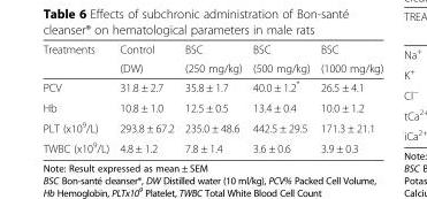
<table><thead><tr><td rowspan="2">Treatments</td><td rowspan="2">Control (DW)</td><td rowspan="2">BSC (250 mg/kg)</td><td rowspan="2">BSC (500 mg/kg)</td><td rowspan="2">BSC (1000 mg/kg)</td></tr><tr></tr></thead><tbody><tr><td>PCV</td><td>31.8 ± 2.7</td><td>35.8 ± 1.7</td><td>40.0 ± 1.2*</td><td>26.5 ± 4.1</td></tr><tr><td>Hb</td><td>10.8 ± 1.0</td><td>12.5 ± 0.5</td><td>13.4 ± 0.4</td><td>10.0 ± 1.2</td></tr><tr><td>PLT (x10<sup>9</sup>/L)</td><td>293.8 ± 67.2</td><td>235.0 ± 48.6</td><td>442.5 ± 29.5</td><td>171.3 ± 21.1</td></tr><tr><td>TWBC (x10<sup>9</sup>/L)</td><td>4.8 ± 1.2</td><td>7.8 ± 1.4</td><td>3.6 ± 0.6</td><td>3.9 ± 0.3</td></tr></tbody></table>